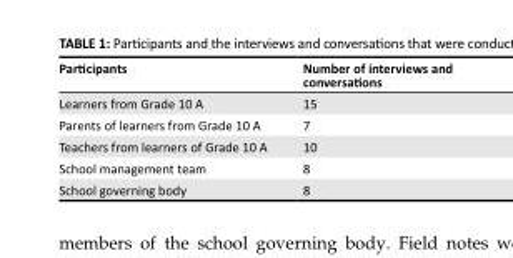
<table><thead><tr><td>Participants</td><td>Number of interviews and conversations</td></tr></thead><tbody><tr><td>Learners from Grade 10 A</td><td>15</td></tr><tr><td>Parents of learners from Grade 10 A</td><td>7</td></tr><tr><td>Teachers from learners of Grade 10 A</td><td>10</td></tr><tr><td>School management team</td><td>8</td></tr><tr><td>School governing body</td><td>8</td></tr></tbody></table>